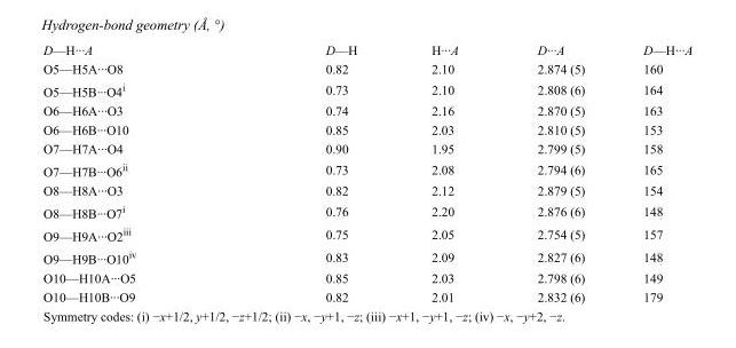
<table><tbody><tr><td>D—H···A</td><td>D—H</td><td>H···A</td><td>D···A</td><td>D—H···A</td></tr><tr><td>O5—H5A···O8</td><td>0.82</td><td>2.10</td><td>2.874 (5)</td><td>160</td></tr><tr><td>O5—H5B···O4<sup>i</sup></td><td>0.73</td><td>2.10</td><td>2.808 (6)</td><td>164</td></tr><tr><td>O6—H6A···O3</td><td>0.74</td><td>2.16</td><td>2.870 (5)</td><td>163</td></tr><tr><td>O6—H6B···O10</td><td>0.85</td><td>2.03</td><td>2.810 (5)</td><td>153</td></tr><tr><td>O7—H7A···O4</td><td>0.90</td><td>1.95</td><td>2.799 (5)</td><td>158</td></tr><tr><td>O7—H7B···O6<sup>ii</sup></td><td>0.73</td><td>2.08</td><td>2.794 (6)</td><td>165</td></tr><tr><td>O8—H8A···O3</td><td>0.82</td><td>2.12</td><td>2.879 (5)</td><td>154</td></tr><tr><td>O8—H8B···O7<sup>i</sup></td><td>0.76</td><td>2.20</td><td>2.876 (6)</td><td>148</td></tr><tr><td>O9—H9A···O2<sup>iii</sup></td><td>0.75</td><td>2.05</td><td>2.754 (5)</td><td>157</td></tr><tr><td>O9—H9B···O10<sup>iv</sup></td><td>0.83</td><td>2.09</td><td>2.827 (6)</td><td>148</td></tr><tr><td>O10—H10A···O5</td><td>0.85</td><td>2.03</td><td>2.798 (6)</td><td>149</td></tr><tr><td>O10—H10B···O9</td><td>0.82</td><td>2.01</td><td>2.832 (6)</td><td>179</td></tr></tbody></table>